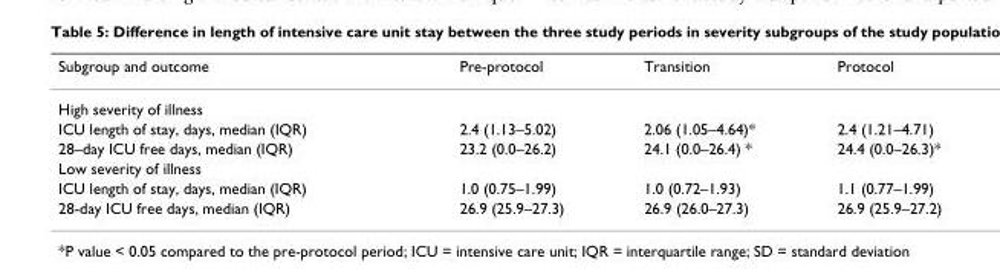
<table><thead><tr><td>Subgroup and outcome</td><td>Pre-protocol</td><td>Transition</td><td>Protocol</td></tr></thead><tbody><tr><td colspan="4">High severity of illness</td></tr><tr><td>ICU length of stay, days, median (IQR)</td><td>2.4 (1.13–5.02)</td><td>2.06 (1.05–4.64)*</td><td>2.4 (1.21–4.71)</td></tr><tr><td>28–day ICU free days, median (IQR)</td><td>23.2 (0.0–26.2)</td><td>24.1 (0.0–26.4) *</td><td>24.4 (0.0–26.3)*</td></tr><tr><td colspan="4">Low severity of illness</td></tr><tr><td>ICU length of stay, days, median (IQR)</td><td>1.0 (0.75–1.99)</td><td>1.0 (0.72–1.93)</td><td>1.1 (0.77–1.99)</td></tr><tr><td>28-day ICU free days, median (IQR)</td><td>26.9 (25.9–27.3)</td><td>26.9 (26.0–27.3)</td><td>26.9 (25.9–27.2)</td></tr></tbody></table>